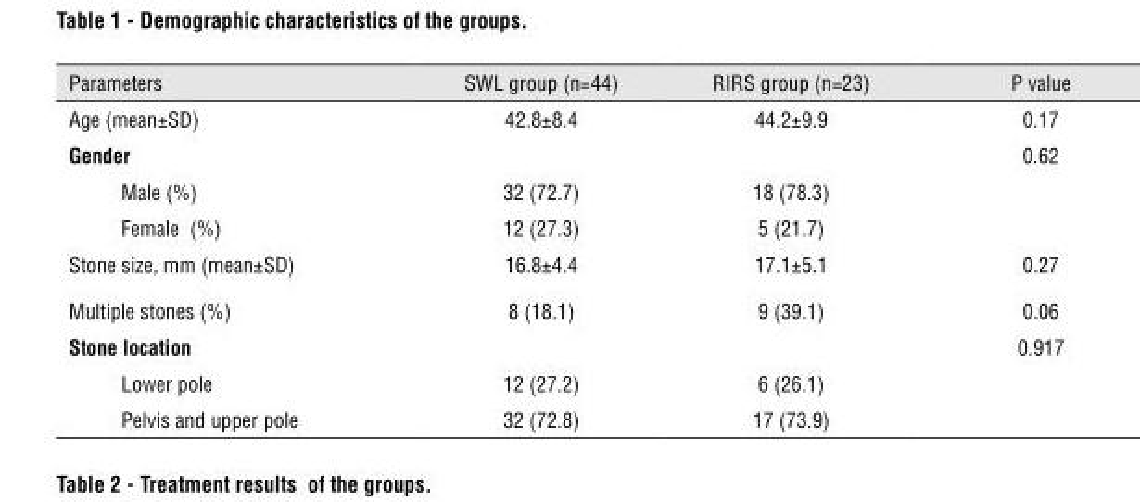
<table><thead><tr><td>Parameters</td><td>SWL group (n=44)</td><td>RIRS group (n=23)</td><td>P value</td></tr></thead><tbody><tr><td>Age (mean±SD)</td><td>42.8±8.4</td><td>44.2±9.9</td><td>0.17</td></tr><tr><td>gender</td><td></td><td></td><td>0.62</td></tr><tr><td>Male (%)</td><td>32 (72.7)</td><td>18 (78.3)</td><td></td></tr><tr><td>Female (%)</td><td>12 (27.3)</td><td>5 (21.7)</td><td></td></tr><tr><td>Stone size, mm (mean±SD)</td><td>16.8±4.4</td><td>17.1±5.1</td><td>0.27</td></tr><tr><td>Multiple stones (%)</td><td>8 (18.1)</td><td>9 (39.1)</td><td>0.06</td></tr><tr><td>stone location</td><td></td><td></td><td>0.917</td></tr><tr><td>Lower pole</td><td>12 (27.2)</td><td>6 (26.1)</td><td></td></tr><tr><td>Pelvis and upper pole</td><td>32 (72.8)</td><td>17 (73.9)</td><td></td></tr></tbody></table>